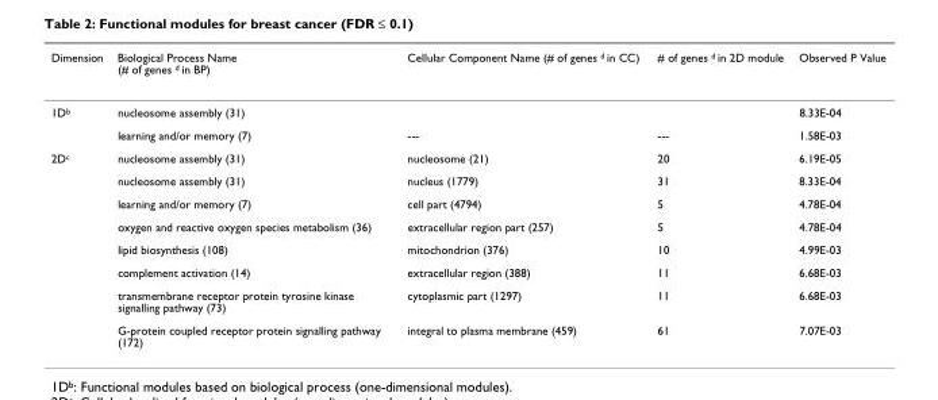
<table><thead><tr><td>Dimension</td><td>Biological Process Name (# of genes <sup>d</sup> in BP)</td><td>Cellular Component Name (# of genes <sup>d</sup> in CC)</td><td># of genes <sup>d</sup> in 2D module</td><td>Observed P Value</td></tr></thead><tbody><tr><td rowspan="2">1D<sup>b</sup></td><td>nucleosome assembly (31)</td><td></td><td></td><td>8.33E-04</td></tr><tr><td>learning and/or memory (7)</td><td>---</td><td>---</td><td>1.58E-03</td></tr><tr><td rowspan="8">2D<sup>c</sup></td><td>nucleosome assembly (31)</td><td>nucleosome (21)</td><td>20</td><td>6.19E-05</td></tr><tr><td>nucleosome assembly (31)</td><td>nucleus (1779)</td><td>31</td><td>8.33E-04</td></tr><tr><td>learning and/or memory (7)</td><td>cell part (4794)</td><td>5</td><td>4.78E-04</td></tr><tr><td>oxygen and reactive oxygen species metabolism (36)</td><td>extracellular region part (257)</td><td>5</td><td>4.78E-04</td></tr><tr><td>lipid biosynthesis (108)</td><td>mitochondrion (376)</td><td>10</td><td>4.99E-03</td></tr><tr><td>complement activation (14)</td><td>extracellular region (388)</td><td>11</td><td>6.68E-03</td></tr><tr><td>transmembrane receptor protein tyrosine kinase signalling pathway (73)</td><td>cytoplasmic part (1297)</td><td>11</td><td>6.68E-03</td></tr><tr><td>G-protein coupled receptor protein signalling pathway (172)</td><td>integral to plasma membrane (459)</td><td>61</td><td>7.07E-03</td></tr></tbody></table>